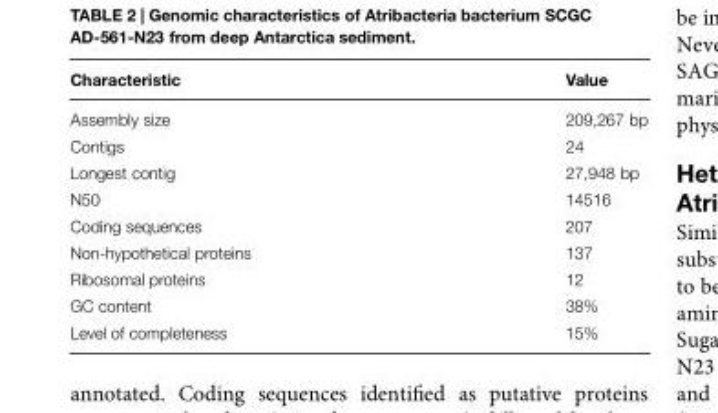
<table><thead><tr><td>Characteristic</td><td>Value</td></tr></thead><tbody><tr><td>Assembly size</td><td>209,267 bp</td></tr><tr><td>Contigs</td><td>24</td></tr><tr><td>Longest contig</td><td>27,948 bp</td></tr><tr><td>N50</td><td>14516</td></tr><tr><td>Coding sequences</td><td>207</td></tr><tr><td>Non-hypothetical proteins</td><td>137</td></tr><tr><td>Ribosomal proteins</td><td>12</td></tr><tr><td>GC content</td><td>38%</td></tr><tr><td>Level of completeness</td><td>15%</td></tr></tbody></table>